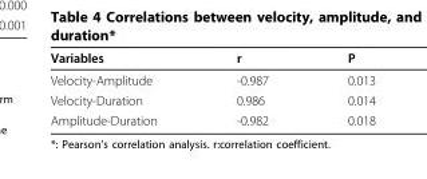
<table><thead><tr><td>Variables</td><td>r</td><td>P</td></tr></thead><tbody><tr><td>Velocity-Amplitude</td><td>-0.987</td><td>0.013</td></tr><tr><td>Velocity-Duration</td><td>0.986</td><td>0.014</td></tr><tr><td>Amplitude-Duration</td><td>-0.982</td><td>0.018</td></tr></tbody></table>